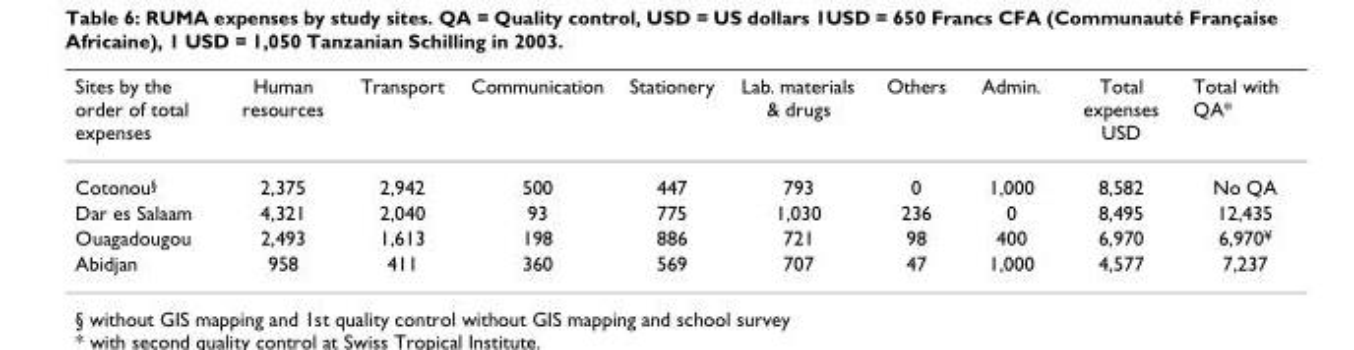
<table><thead><tr><td>Sites by the order of total expenses</td><td>Human resources</td><td>Transport</td><td>Communication</td><td>Stationery</td><td>Lab. materials &amp; drugs</td><td>Others</td><td>Admin.</td><td>Total expenses USD</td><td>Total with QA*</td></tr></thead><tbody><tr><td>Cotonou<sup>§</sup></td><td>2,375</td><td>2,942</td><td>500</td><td>447</td><td>793</td><td>0</td><td>1,000</td><td>8,582</td><td>No QA</td></tr><tr><td>Dar es Salaam</td><td>4,321</td><td>2,040</td><td>93</td><td>775</td><td>1,030</td><td>236</td><td>0</td><td>8,495</td><td>12,435</td></tr><tr><td>Ouagadougou</td><td>2,493</td><td>1,613</td><td>198</td><td>886</td><td>721</td><td>98</td><td>400</td><td>6,970</td><td>6,970<sup>¥</sup></td></tr><tr><td>Abidjan</td><td>958</td><td>411</td><td>360</td><td>569</td><td>707</td><td>47</td><td>1,000</td><td>4,577</td><td>7,237</td></tr></tbody></table>